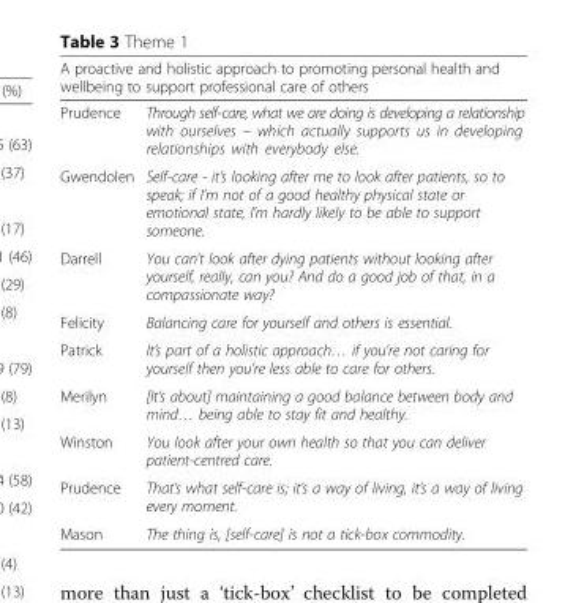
<table><thead><tr><td colspan="2">A proactive and holistic approach to promoting personal health and wellbeing to support professional care of others</td></tr><tr><td>Prudence</td><td>Through self-care, what we are doing is developing a relationship with ourselves – which actually supports us in developing relationships with everybody else.</td></tr></thead><tbody><tr><td>Gwendolen</td><td>Self-care - it’s looking after me to look after patients, so to speak; if I’m not of a good healthy physical state or emotional state, I’m hardly likely to be able to support someone.</td></tr><tr><td>Darrell</td><td>You can’t look after dying patients without looking after yourself, really, can you? And do a good job of that, in a compassionate way?</td></tr><tr><td>Felicity</td><td>Balancing care for yourself and others is essential.</td></tr><tr><td>Patrick</td><td>It’s part of a holistic approach… if you’re not caring for yourself then you’re less able to care for others.</td></tr><tr><td>Merilyn</td><td>[It’s about] maintaining a good balance between body and mind… being able to stay fit and healthy.</td></tr><tr><td>Winston</td><td>You look after your own health so that you can deliver patient-centred care.</td></tr><tr><td>Prudence</td><td>That’s what self-care is; it’s a way of living, it’s a way of living every moment.</td></tr><tr><td>Mason</td><td>The thing is, [self-care] is not a tick-box commodity.</td></tr></tbody></table>